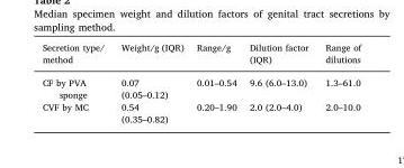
<table><thead><tr><td>Secretion type/ method</td><td>Weight/g (IQR)</td><td>Range/g</td><td>Dilution factor (IQR)</td><td>Range of dilutions</td></tr></thead><tbody><tr><td>CF by PVA sponge</td><td>0.07 (0.05–0.12)</td><td>0.01–0.54</td><td>9.6 (6.0–13.0)</td><td>1.3–61.0</td></tr><tr><td>CVF by MC</td><td>0.54 (0.35–0.82)</td><td>0.20–1.90</td><td>2.0 (2.0–4.0)</td><td>2.0–10.0</td></tr></tbody></table>